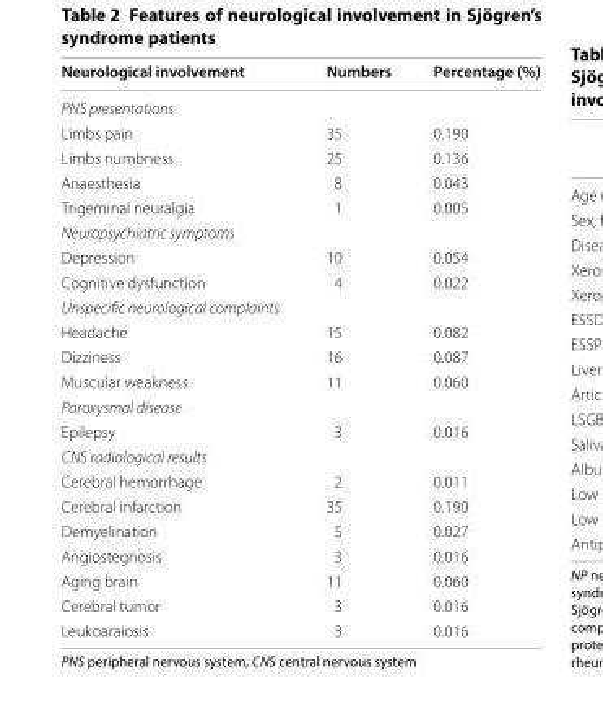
<table><thead><tr><td>Neurological involvement</td><td>Numbers</td><td>Percentage (%)</td></tr></thead><tbody><tr><td colspan="3">PNS presentations</td></tr><tr><td>Limbs pain</td><td>35</td><td>0.190</td></tr><tr><td>Limbs numbness</td><td>25</td><td>0.136</td></tr><tr><td>Anaesthesia</td><td>8</td><td>0.043</td></tr><tr><td>Trigeminal neuralgia</td><td>1</td><td>0.005</td></tr><tr><td colspan="3">Neuropsychiatric symptoms</td></tr><tr><td>Depression</td><td>10</td><td>0.054</td></tr><tr><td>Cognitive dysfunction</td><td>4</td><td>0.022</td></tr><tr><td colspan="3">Unspecific neurological complaints</td></tr><tr><td>Headache</td><td>15</td><td>0.082</td></tr><tr><td>Dizziness</td><td>16</td><td>0.087</td></tr><tr><td>Muscular weakness</td><td>11</td><td>0.060</td></tr><tr><td colspan="3">Paroxysmal disease</td></tr><tr><td>Epilepsy</td><td>3</td><td>0.016</td></tr><tr><td colspan="3">CNS radiological results</td></tr><tr><td>Cerebral hemorrhage</td><td>2</td><td>0.011</td></tr><tr><td>Cerebral infarction</td><td>35</td><td>0.190</td></tr><tr><td>Demyelination</td><td>5</td><td>0.027</td></tr><tr><td>Angiostegnosis</td><td>3</td><td>0.016</td></tr><tr><td>Aging brain</td><td>11</td><td>0.060</td></tr><tr><td>Cerebral tumor</td><td>3</td><td>0.016</td></tr><tr><td>Leukoaraiosis</td><td>3</td><td>0.016</td></tr></tbody></table>